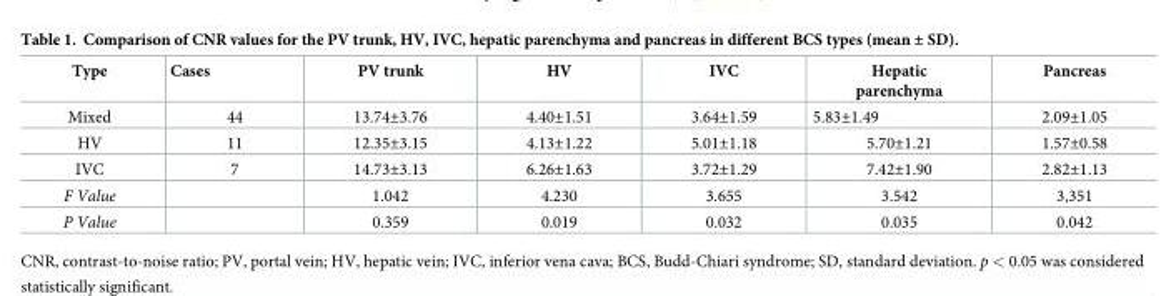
<table><thead><tr><td>Type</td><td>Cases</td><td>PV trunk</td><td>HV</td><td>IVC</td><td>Hepatic parenchyma</td><td>Pancreas</td></tr></thead><tbody><tr><td>Mixed</td><td>44</td><td>13.74±3.76</td><td>4.40±1.51</td><td>3.64±1.59</td><td>5.83±1.49</td><td>2.09±1.05</td></tr><tr><td>HV</td><td>11</td><td>12.35±3.15</td><td>4.13±1.22</td><td>5.01±1.18</td><td>5.70±1.21</td><td>1.57±0.58</td></tr><tr><td>IVC</td><td>7</td><td>14.73±3.13</td><td>6.26±1.63</td><td>3.72±1.29</td><td>7.42±1.90</td><td>2.82±1.13</td></tr><tr><td>F Value</td><td></td><td>1.042</td><td>4.230</td><td>3.655</td><td>3.542</td><td>3,351</td></tr><tr><td>P Value</td><td></td><td>0.359</td><td>0.019</td><td>0.032</td><td>0.035</td><td>0.042</td></tr></tbody></table>